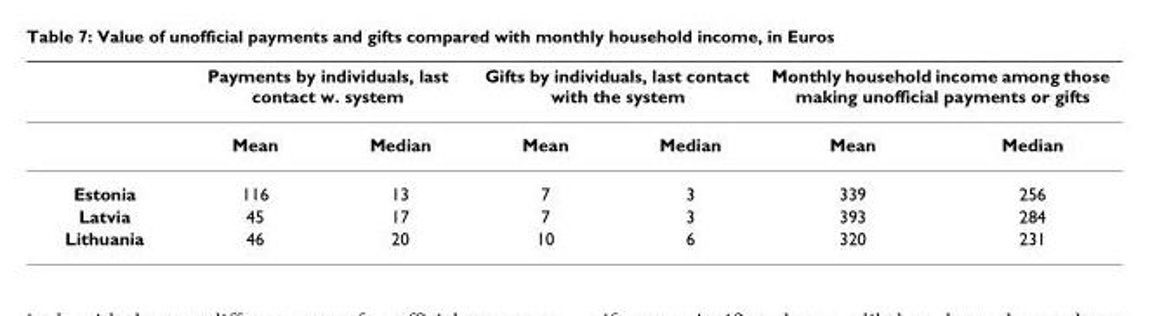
<table><thead><tr><td rowspan="2"></td><td colspan="2">Payments by individuals, last contact w. system</td><td colspan="2">Gifts by individuals, last contact with the system</td><td colspan="2">Monthly household income among those making unofficial payments or gifts</td></tr><tr><td>Mean</td><td>Median</td><td>Mean</td><td>Median</td><td>Mean</td><td>Median</td></tr></thead><tbody><tr><td>Estonia</td><td>116</td><td>13</td><td>7</td><td>3</td><td>339</td><td>256</td></tr><tr><td>Latvia</td><td>45</td><td>17</td><td>7</td><td>3</td><td>393</td><td>284</td></tr><tr><td>Lithuania</td><td>46</td><td>20</td><td>10</td><td>6</td><td>320</td><td>231</td></tr></tbody></table>